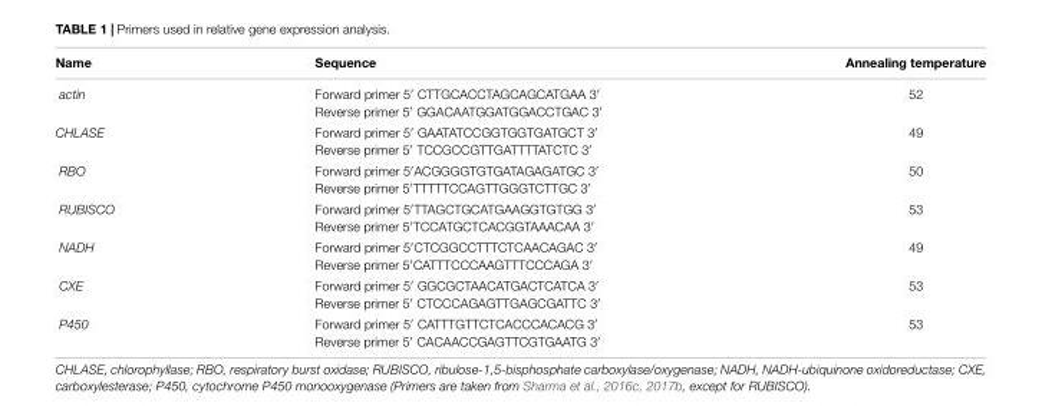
<table><thead><tr><td>Name</td><td>Sequence</td><td>Annealing temperature</td></tr></thead><tbody><tr><td>actin</td><td>Forward primer 5′ CTTGCACCTAGCAGCATGAA 3′ Reverse primer 5′ GGACAATGGATGGACCTGAC 3′</td><td>52</td></tr><tr><td>CHLASE</td><td>Forward primer 5′ GAATATCCGGTGGTGATGCT 3′ Reverse primer 5′ TCCGCCGTTGATTTTATCTC 3′</td><td>49</td></tr><tr><td>RBO</td><td>Forward primer 5′ACGGGGTGTGATAGAGATGC 3′ Reverse primer 5′TTTTTCCAGTTGGGTCTTGC 3′</td><td>50</td></tr><tr><td>RUBISCO</td><td>Forward primer 5′TTAGCTGCATGAAGGTGTGG 3′ Reverse primer 5′TCCATGCTCACGGTAAACAA 3′</td><td>53</td></tr><tr><td>NADH</td><td>Forward primer 5′CTCGGCCTTTCTCAACAGAC 3′ Reverse primer 5′CATTTCCCAAGTTTCCCAGA 3′</td><td>49</td></tr><tr><td>CXE</td><td>Forward primer 5′ GGCGCTAACATGACTCATCA 3′ Reverse primer 5′ CTCCCAGAGTTGAGCGATTC 3′</td><td>53</td></tr><tr><td>P450</td><td>Forward primer 5′ CATTTGTTCTCACCCACACG 3′ Reverse primer 5′ CACAACCGAGTTCGTGAATG 3′</td><td>53</td></tr></tbody></table>